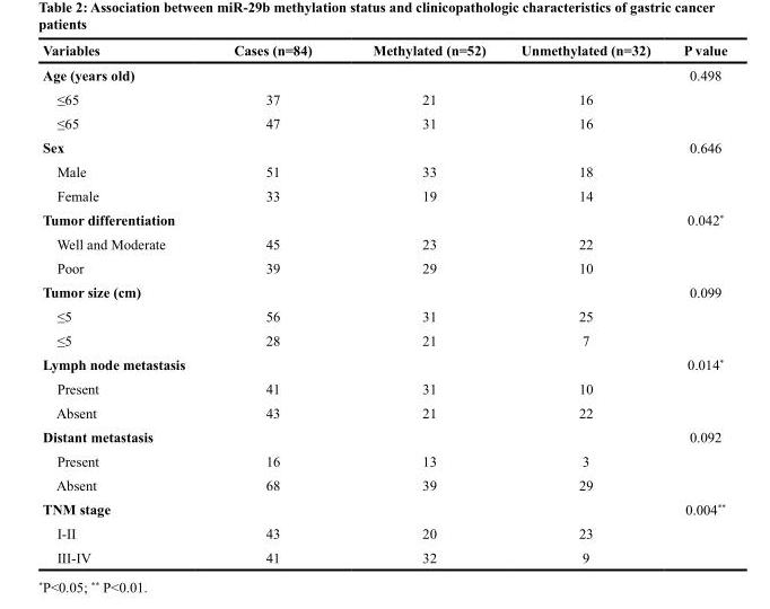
<table><thead><tr><td>Variables</td><td>Cases (n=84)</td><td>Methylated (n=52)</td><td>Unmethylated (n=32)</td><td>P value</td></tr></thead><tbody><tr><td>Age (years old)</td><td></td><td></td><td></td><td>0.498</td></tr><tr><td>≤65</td><td>37</td><td>21</td><td>16</td><td></td></tr><tr><td>≤65</td><td>47</td><td>31</td><td>16</td><td></td></tr><tr><td>Sex</td><td></td><td></td><td></td><td>0.646</td></tr><tr><td>Male</td><td>51</td><td>33</td><td>18</td><td></td></tr><tr><td>Female</td><td>33</td><td>19</td><td>14</td><td></td></tr><tr><td>Tumor differentiation</td><td></td><td></td><td></td><td>0.042*</td></tr><tr><td>Well and Moderate</td><td>45</td><td>23</td><td>22</td><td></td></tr><tr><td>Poor</td><td>39</td><td>29</td><td>10</td><td></td></tr><tr><td>Tumor size (cm)</td><td></td><td></td><td></td><td>0.099</td></tr><tr><td>≤5</td><td>56</td><td>31</td><td>25</td><td></td></tr><tr><td>≤5</td><td>28</td><td>21</td><td>7</td><td></td></tr><tr><td>Lymph node metastasis</td><td></td><td></td><td></td><td>0.014*</td></tr><tr><td>Present</td><td>41</td><td>31</td><td>10</td><td></td></tr><tr><td>Absent</td><td>43</td><td>21</td><td>22</td><td></td></tr><tr><td>Distant metastasis</td><td></td><td></td><td></td><td>0.092</td></tr><tr><td>Present</td><td>16</td><td>13</td><td>3</td><td></td></tr><tr><td>Absent</td><td>68</td><td>39</td><td>29</td><td></td></tr><tr><td>TNM stage</td><td></td><td></td><td></td><td>0.004**</td></tr><tr><td>I-II</td><td>43</td><td>20</td><td>23</td><td></td></tr><tr><td>III-IV</td><td>41</td><td>32</td><td>9</td><td></td></tr></tbody></table>